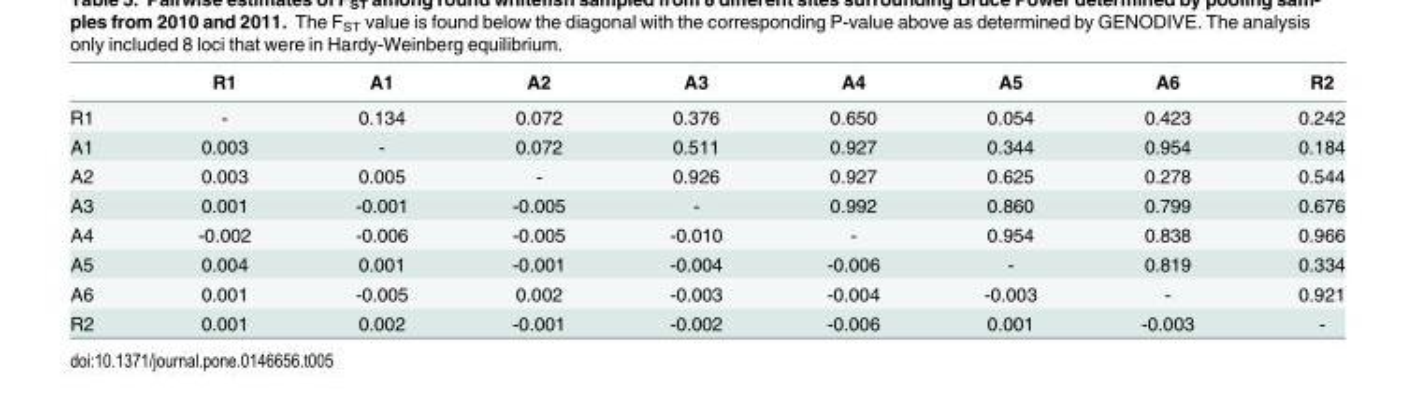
<table><thead><tr><td></td><td>R1</td><td>A1</td><td>A2</td><td>A3</td><td>A4</td><td>A5</td><td>A6</td><td>R2</td></tr></thead><tbody><tr><td>R1</td><td>-</td><td>0.134</td><td>0.072</td><td>0.376</td><td>0.650</td><td>0.054</td><td>0.423</td><td>0.242</td></tr><tr><td>A1</td><td>0.003</td><td>-</td><td>0.072</td><td>0.511</td><td>0.927</td><td>0.344</td><td>0.954</td><td>0.184</td></tr><tr><td>A2</td><td>0.003</td><td>0.005</td><td>-</td><td>0.926</td><td>0.927</td><td>0.625</td><td>0.278</td><td>0.544</td></tr><tr><td>A3</td><td>0.001</td><td>-0.001</td><td>-0.005</td><td>-</td><td>0.992</td><td>0.860</td><td>0.799</td><td>0.676</td></tr><tr><td>A4</td><td>-0.002</td><td>-0.006</td><td>-0.005</td><td>-0.010</td><td>-</td><td>0.954</td><td>0.838</td><td>0.966</td></tr><tr><td>A5</td><td>0.004</td><td>0.001</td><td>-0.001</td><td>-0.004</td><td>-0.006</td><td>-</td><td>0.819</td><td>0.334</td></tr><tr><td>A6</td><td>0.001</td><td>-0.005</td><td>0.002</td><td>-0.003</td><td>-0.004</td><td>-0.003</td><td>-</td><td>0.921</td></tr><tr><td>R2</td><td>0.001</td><td>0.002</td><td>-0.001</td><td>-0.002</td><td>-0.006</td><td>0.001</td><td>-0.003</td><td>-</td></tr></tbody></table>